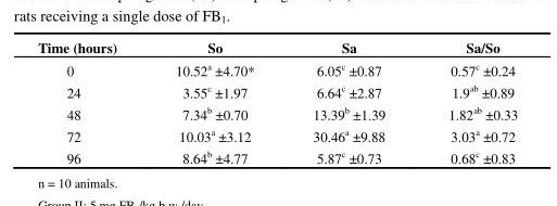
<table><thead><tr><td>Time (hours)</td><td>So</td><td>Sa</td><td>Sa/So</td></tr></thead><tbody><tr><td>0</td><td>10.52<sup>a</sup> ±4.70*</td><td>6.05<sup>c</sup> ±0.87</td><td>0.57<sup>c</sup> ±0.24</td></tr><tr><td>24</td><td>3.55<sup>c</sup> ±1.97</td><td>6.64<sup>c</sup> ±2.87</td><td>1.9<sup>ab</sup> ±0.89</td></tr><tr><td>48</td><td>7.34<sup>b</sup> ±0.70</td><td>13.39<sup>b</sup> ±1.39</td><td>1.82<sup>ab</sup> ±0.33</td></tr><tr><td>72</td><td>10.03<sup>a</sup> ±3.12</td><td>30.46<sup>a</sup> ±9.88</td><td>3.03<sup>a</sup> ±0.72</td></tr><tr><td>96</td><td>8.64<sup>b</sup> ±4.77</td><td>5.87<sup>c</sup> ±0.73</td><td>0.68<sup>c</sup> ±0.83</td></tr></tbody></table>